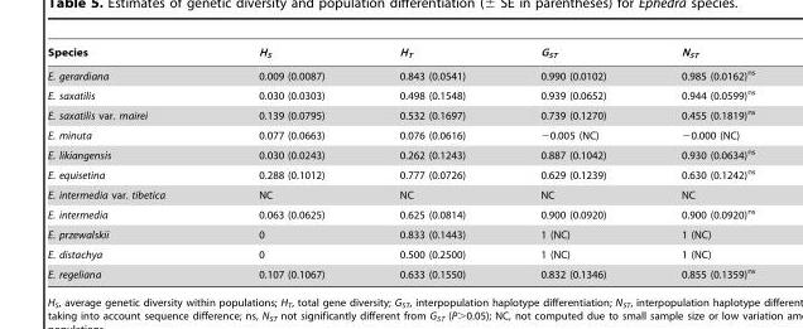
<table><thead><tr><td>Species</td><td>H<sub>S</sub></td><td>H<sub>T</sub></td><td>G<sub>ST</sub></td><td>N<sub>ST</sub></td></tr></thead><tbody><tr><td>E. gerardiana</td><td>0.009 (0.0087)</td><td>0.843 (0.0541)</td><td>0.990 (0.0102)</td><td>0.985 (0.0162)<sup>ns</sup></td></tr><tr><td>E. saxatilis</td><td>0.030 (0.0303)</td><td>0.498 (0.1548)</td><td>0.939 (0.0652)</td><td>0.944 (0.0599)<sup>ns</sup></td></tr><tr><td>E. saxatilis var. mairei</td><td>0.139 (0.0795)</td><td>0.532 (0.1697)</td><td>0.739 (0.1270)</td><td>0.455 (0.1819)<sup>ns</sup></td></tr><tr><td>E. minuta</td><td>0.077 (0.0663)</td><td>0.076 (0.0616)</td><td>−0.005 (NC)</td><td>−0.000 (NC)</td></tr><tr><td>E. likiangensis</td><td>0.030 (0.0243)</td><td>0.262 (0.1243)</td><td>0.887 (0.1042)</td><td>0.930 (0.0634)<sup>ns</sup></td></tr><tr><td>E. equisetina</td><td>0.288 (0.1012)</td><td>0.777 (0.0726)</td><td>0.629 (0.1239)</td><td>0.630 (0.1242)<sup>ns</sup></td></tr><tr><td>E. intermedia var. tibetica</td><td>NC</td><td>NC</td><td>NC</td><td>NC</td></tr><tr><td>E. intermedia</td><td>0.063 (0.0625)</td><td>0.625 (0.0814)</td><td>0.900 (0.0920)</td><td>0.900 (0.0920)<sup>ns</sup></td></tr><tr><td>E. przewalskii</td><td>0</td><td>0.833 (0.1443)</td><td>1 (NC)</td><td>1 (NC)</td></tr><tr><td>E. distachya</td><td>0</td><td>0.500 (0.2500)</td><td>1 (NC)</td><td>1 (NC)</td></tr><tr><td>E. regeliana</td><td>0.107 (0.1067)</td><td>0.633 (0.1550)</td><td>0.832 (0.1346)</td><td>0.855 (0.1359)<sup>ns</sup></td></tr></tbody></table>